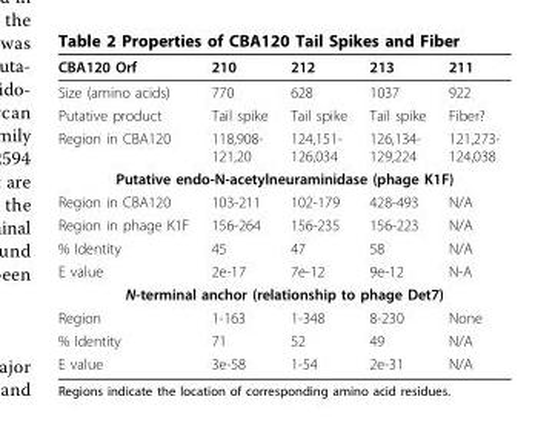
<table><thead><tr><td>CBA120 Orf</td><td>210</td><td>212</td><td>213</td><td>211</td></tr></thead><tbody><tr><td>Size (amino acids)</td><td>770</td><td>628</td><td>1037</td><td>922</td></tr><tr><td>Putative product</td><td>Tail spike</td><td>Tail spike</td><td>Tail spike</td><td>Fiber?</td></tr><tr><td>Region in CBA120</td><td>118,908- 121,20</td><td>124,151- 126,034</td><td>126,134- 129,224</td><td>121,273- 124,038</td></tr><tr><td colspan="5">Putative endo-N-acetylneuraminidase (phage K1F)</td></tr><tr><td>Region in CBA120</td><td>103-211</td><td>102-179</td><td>428-493</td><td>N/A</td></tr><tr><td>Region in phage K1F</td><td>156-264</td><td>156-235</td><td>156-223</td><td>N/A</td></tr><tr><td>% Identity</td><td>45</td><td>47</td><td>58</td><td>N/A</td></tr><tr><td>E value</td><td>2e-17</td><td>7e-12</td><td>9e-12</td><td>N-A</td></tr><tr><td colspan="5">N-terminal anchor (relationship to phage Det7)</td></tr><tr><td>Region</td><td>1-163</td><td>1-348</td><td>8-230</td><td>None</td></tr><tr><td>% Identity</td><td>71</td><td>52</td><td>49</td><td>N/A</td></tr><tr><td>E value</td><td>3e-58</td><td>1-54</td><td>2e-31</td><td>N/A</td></tr></tbody></table>